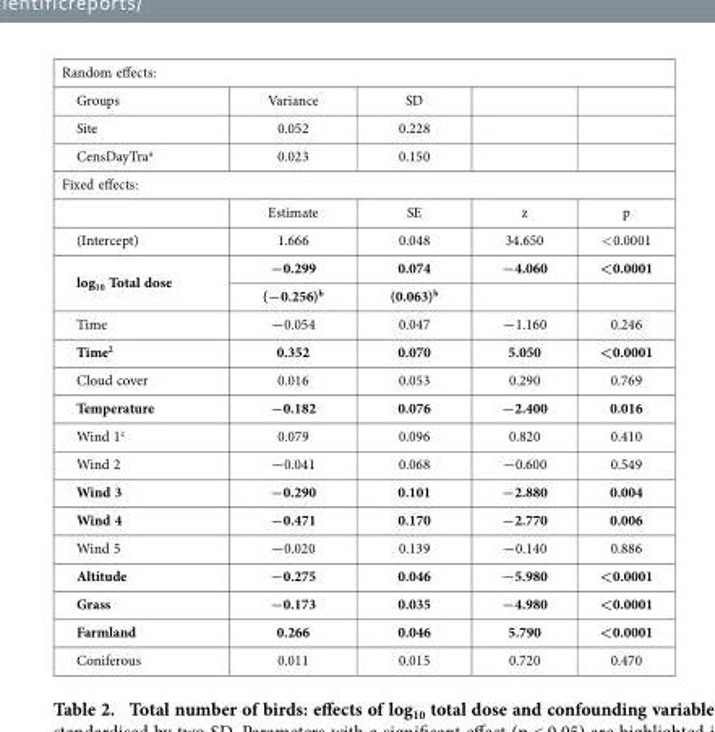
<table><tbody><tr><td colspan="5">Random effects:</td></tr><tr><td>Groups</td><td>Variance</td><td>SD</td><td></td><td></td></tr><tr><td>Site</td><td>0.052</td><td>0.228</td><td></td><td></td></tr><tr><td>CensDayTra<sup>a</sup></td><td>0.023</td><td>0.150</td><td></td><td></td></tr><tr><td colspan="5">Fixed effects:</td></tr><tr><td></td><td>Estimate</td><td>SE</td><td>z</td><td>p</td></tr><tr><td>(Intercept)</td><td>1.666</td><td>0.048</td><td>34.650</td><td>&lt; 0.0001</td></tr><tr><td rowspan="2">log<sub>10</sub> Total dose</td><td>−0.299</td><td>0.074</td><td>−4.060</td><td>&lt;0.0001</td></tr><tr><td>(−0.256)<sup>b</sup></td><td>(0.063)<sup>b</sup></td><td></td><td></td></tr><tr><td>Time</td><td>−0.054</td><td>0.047</td><td>−1.160</td><td>0.246</td></tr><tr><td>Time<sup>2</sup></td><td>0.352</td><td>0.070</td><td>5.050</td><td>&lt;0.0001</td></tr><tr><td>Cloud cover</td><td>0.016</td><td>0.053</td><td>0.290</td><td>0.769</td></tr><tr><td>Temperature</td><td>−0.182</td><td>0.076</td><td>−2.400</td><td>0.016</td></tr><tr><td>Wind 1<sup>c</sup></td><td>0.079</td><td>0.096</td><td>0.820</td><td>0.410</td></tr><tr><td>Wind 2</td><td>−0.041</td><td>0.068</td><td>−0.600</td><td>0.549</td></tr><tr><td>Wind 3</td><td>−0.290</td><td>0.101</td><td>−2.880</td><td>0.004</td></tr><tr><td>Wind 4</td><td>−0.471</td><td>0.170</td><td>−2.770</td><td>0.006</td></tr><tr><td>Wind 5</td><td>−0.020</td><td>0.139</td><td>−0.140</td><td>0.886</td></tr><tr><td>Altitude</td><td>−0.275</td><td>0.046</td><td>−5.980</td><td>&lt;0.0001</td></tr><tr><td>Grass</td><td>−0.173</td><td>0.035</td><td>−4.980</td><td>&lt;0.0001</td></tr><tr><td>Farmland</td><td>0.266</td><td>0.046</td><td>5.790</td><td>&lt;0.0001</td></tr><tr><td>Coniferous</td><td>0.011</td><td>0.015</td><td>0.720</td><td>0.470</td></tr></tbody></table>